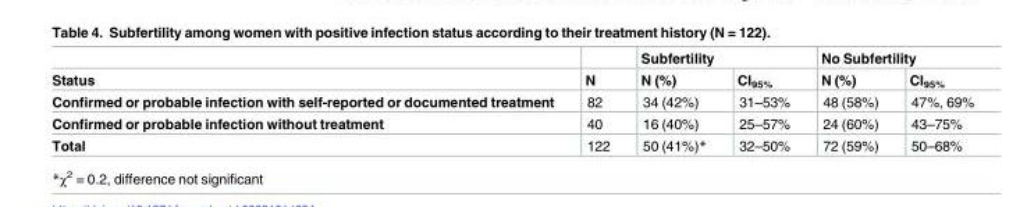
<table><thead><tr><td rowspan="2">Status</td><td rowspan="2">N</td><td colspan="2">Subfertility</td><td colspan="2">No Subfertility</td></tr><tr><td>N (%)</td><td>CI<sub>95%</sub></td><td>N (%)</td><td>CI<sub>95%</sub></td></tr></thead><tbody><tr><td>Confirmed or probable infection with self-reported or documented treatment</td><td>82</td><td>34 (42%)</td><td>31–53%</td><td>48 (58%)</td><td>47%, 69%</td></tr><tr><td>Confirmed or probable infection without treatment</td><td>40</td><td>16 (40%)</td><td>25–57%</td><td>24 (60%)</td><td>43–75%</td></tr><tr><td>Total</td><td>122</td><td>50 (41%)*</td><td>32–50%</td><td>72 (59%)</td><td>50–68%</td></tr></tbody></table>